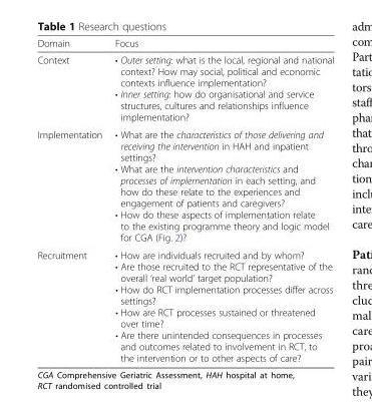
<table><thead><tr><td>Domain</td><td>Focus</td></tr></thead><tbody><tr><td>Context</td><td>• Outer setting: what is the local, regional and national context? How may social, political and economic contexts influence implementation? • Inner setting: how do organisational and service structures, cultures and relationships influence implementation?</td></tr><tr><td>Implementation</td><td>• What are the characteristics of those delivering and receiving the intervention in HAH and inpatient settings? • What are the intervention characteristics and processes of implementation in each setting, and how do these relate to the experiences and engagement of patients and caregivers? • How do these aspects of implementation relate to the existing programme theory and logic model for CGA (Fig. 2)?</td></tr><tr><td>Recruitment</td><td>• How are individuals recruited and by whom? • Are those recruited to the RCT representative of the overall ‘real world’ target population? • How do RCT implementation processes differ across settings? • How are RCT processes sustained or threatened over time? • Are there unintended consequences in processes and outcomes related to involvement in RCT, to the intervention or to other aspects of care?</td></tr></tbody></table>